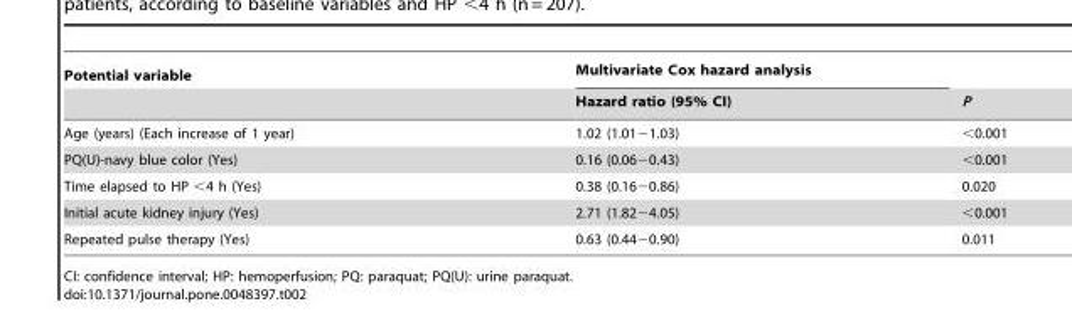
<table><thead><tr><td rowspan="2">Potential variable</td><td rowspan="2">Multivariate Cox hazard analysis Hazard ratio (95% CI)</td><td rowspan="2">P</td></tr><tr></tr></thead><tbody><tr><td>Age (years) (Each increase of 1 year)</td><td>1.02 (1.01−1.03)</td><td>&lt;0.001</td></tr><tr><td>PQ(U)-navy blue color (Yes)</td><td>0.16 (0.06−0.43)</td><td>&lt;0.001</td></tr><tr><td>Time elapsed to HP &lt;4 h (Yes)</td><td>0.38 (0.16−0.86)</td><td>0.020</td></tr><tr><td>Initial acute kidney injury (Yes)</td><td>2.71 (1.82−4.05)</td><td>&lt;0.001</td></tr><tr><td>Repeated pulse therapy (Yes)</td><td>0.63 (0.44−0.90)</td><td>0.011</td></tr></tbody></table>